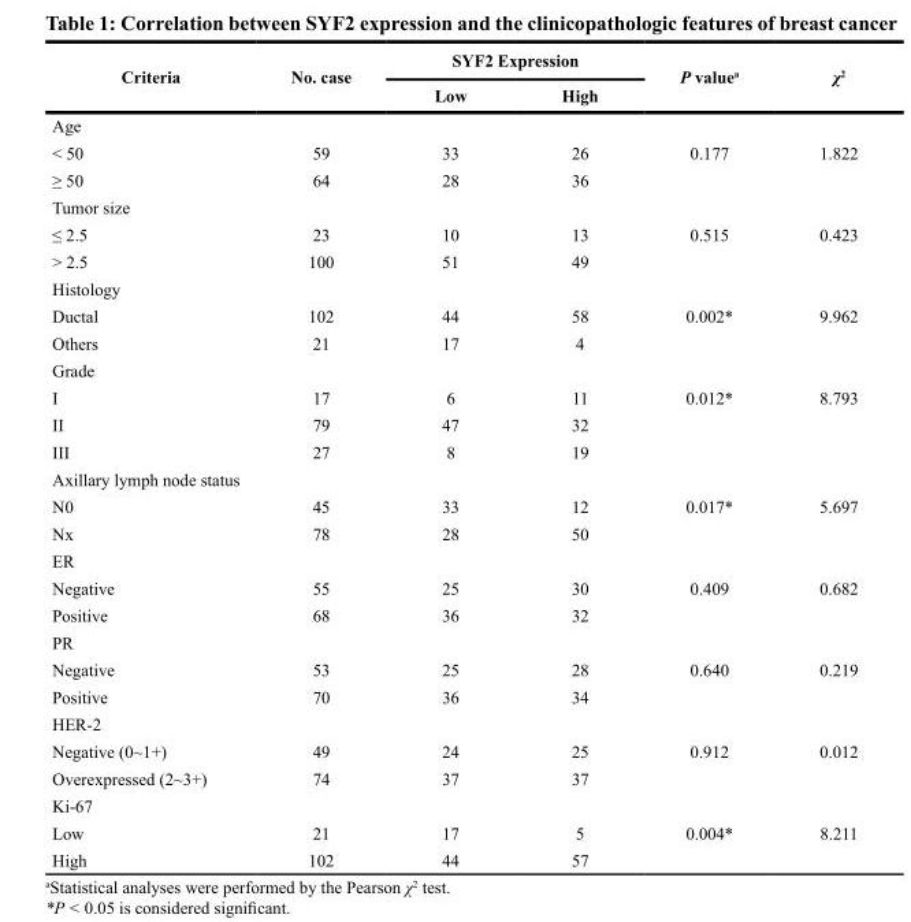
<table><thead><tr><td rowspan="2">Criteria</td><td rowspan="2">No. case</td><td colspan="2">SYF2 Expression</td><td rowspan="2">P value<sup>a</sup></td><td rowspan="2">χ<sup>2</sup></td></tr><tr><td>Low</td><td>High</td></tr></thead><tbody><tr><td colspan="6">Age</td></tr><tr><td>&lt; 50</td><td>59</td><td>33</td><td>26</td><td>0.177</td><td>1.822</td></tr><tr><td>≥ 50</td><td>64</td><td>28</td><td>36</td><td></td><td></td></tr><tr><td colspan="6">Tumor size</td></tr><tr><td>≤ 2.5</td><td>23</td><td>10</td><td>13</td><td>0.515</td><td>0.423</td></tr><tr><td>&gt; 2.5</td><td>100</td><td>51</td><td>49</td><td></td><td></td></tr><tr><td colspan="6">Histology</td></tr><tr><td>Ductal</td><td>102</td><td>44</td><td>58</td><td>0.002*</td><td>9.962</td></tr><tr><td>Others</td><td>21</td><td>17</td><td>4</td><td></td><td></td></tr><tr><td colspan="6">Grade</td></tr><tr><td>I</td><td>17</td><td>6</td><td>11</td><td>0.012*</td><td>8.793</td></tr><tr><td>II</td><td>79</td><td>47</td><td>32</td><td></td><td></td></tr><tr><td>III</td><td>27</td><td>8</td><td>19</td><td></td><td></td></tr><tr><td colspan="6">Axillary lymph node status</td></tr><tr><td>N0</td><td>45</td><td>33</td><td>12</td><td>0.017*</td><td>5.697</td></tr><tr><td>Nx</td><td>78</td><td>28</td><td>50</td><td></td><td></td></tr><tr><td colspan="6">ER</td></tr><tr><td>Negative</td><td>55</td><td>25</td><td>30</td><td>0.409</td><td>0.682</td></tr><tr><td>Positive</td><td>68</td><td>36</td><td>32</td><td></td><td></td></tr><tr><td colspan="6">PR</td></tr><tr><td>Negative</td><td>53</td><td>25</td><td>28</td><td>0.640</td><td>0.219</td></tr><tr><td>Positive</td><td>70</td><td>36</td><td>34</td><td></td><td></td></tr><tr><td colspan="6">HER-2</td></tr><tr><td>Negative (0~1+)</td><td>49</td><td>24</td><td>25</td><td>0.912</td><td>0.012</td></tr><tr><td>Overexpressed (2~3+)</td><td>74</td><td>37</td><td>37</td><td></td><td></td></tr><tr><td colspan="6">Ki-67</td></tr><tr><td>Low</td><td>21</td><td>17</td><td>5</td><td>0.004*</td><td>8.211</td></tr><tr><td>High</td><td>102</td><td>44</td><td>57</td><td></td><td></td></tr></tbody></table>